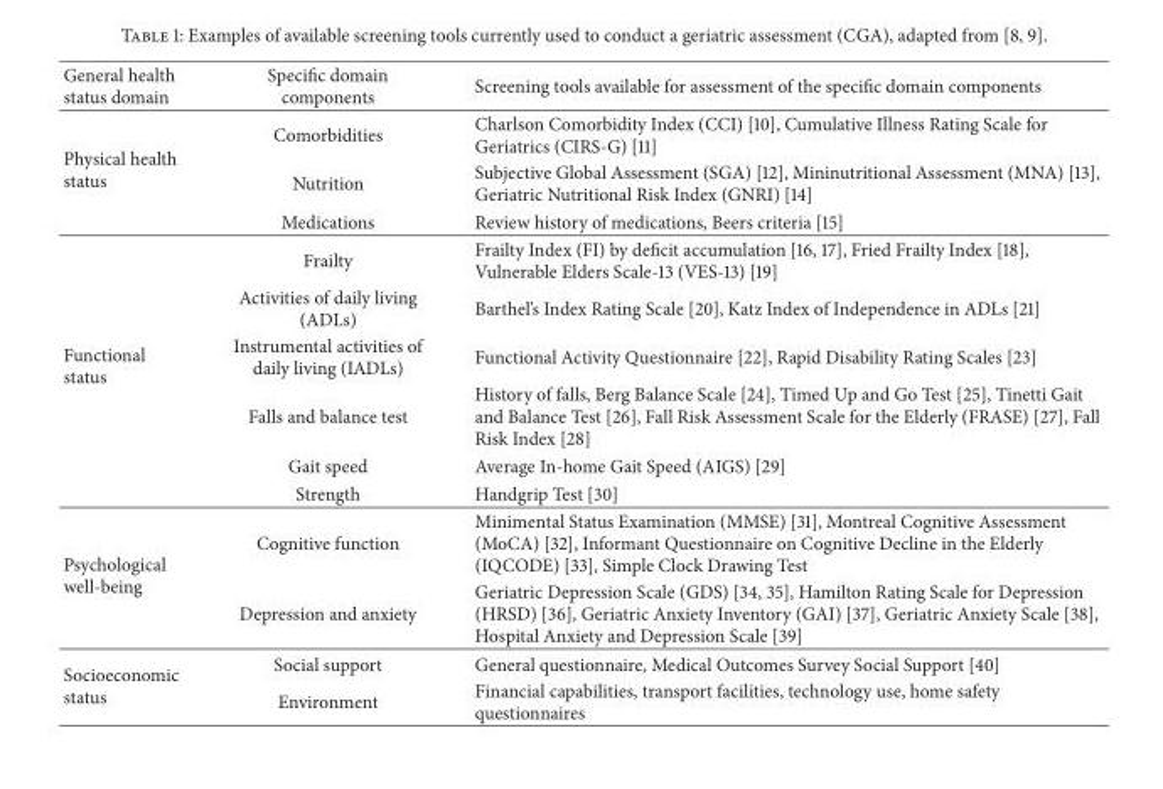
<table><thead><tr><td>General health status domain</td><td>Specific domain components</td><td>Screening tools available for assessment of the specific domain components</td></tr></thead><tbody><tr><td rowspan="3">Physical health status</td><td>Comorbidities</td><td>Charlson Comorbidity Index (CCI) [10], Cumulative Illness Rating Scale for Geriatrics (CIRS-G) [11]</td></tr><tr><td>Nutrition</td><td>Subjective Global Assessment (SGA) [12], Mininutritional Assessment (MNA) [13], Geriatric Nutritional Risk Index (GNRI) [14]</td></tr><tr><td>Medications</td><td>Review history of medications, Beers criteria [15]</td></tr><tr><td rowspan="6">Functional status</td><td>Frailty</td><td>Frailty Index (FI) by deficit accumulation [16, 17], Fried Frailty Index [18], Vulnerable Elders Scale-13 (VES-13) [19]</td></tr><tr><td>Activities of daily living (ADLs)</td><td>Barthel’s Index Rating Scale [20], Katz Index of Independence in ADLs [21]</td></tr><tr><td>Instrumental activities of daily living (IADLs)</td><td>Functional Activity Questionnaire [22], Rapid Disability Rating Scales [23]</td></tr><tr><td>Falls and balance test</td><td>History of falls, Berg Balance Scale [24], Timed Up and Go Test [25], Tinetti Gait and Balance Test [26], Fall Risk Assessment Scale for the Elderly (FRASE) [27], Fall Risk Index [28]</td></tr><tr><td>Gait speed</td><td>Average In-home Gait Speed (AIGS) [29]</td></tr><tr><td>Strength</td><td>Handgrip Test [30]</td></tr><tr><td rowspan="2">Psychological well-being</td><td>Cognitive function</td><td>Minimental Status Examination (MMSE) [31], Montreal Cognitive Assessment (MoCA) [32], Informant Questionnaire on Cognitive Decline in the Elderly (IQCODE) [33], Simple Clock Drawing Test</td></tr><tr><td>Depression and anxiety</td><td>Geriatric Depression Scale (GDS) [34, 35], Hamilton Rating Scale for Depression (HRSD) [36], Geriatric Anxiety Inventory (GAI) [37], Geriatric Anxiety Scale [38], Hospital Anxiety and Depression Scale [39]</td></tr><tr><td rowspan="2">Socioeconomic status</td><td>Social support</td><td>General questionnaire, Medical Outcomes Survey Social Support [40]</td></tr><tr><td>Environment</td><td>Financial capabilities, transport facilities, technology use, home safety questionnaires</td></tr></tbody></table>